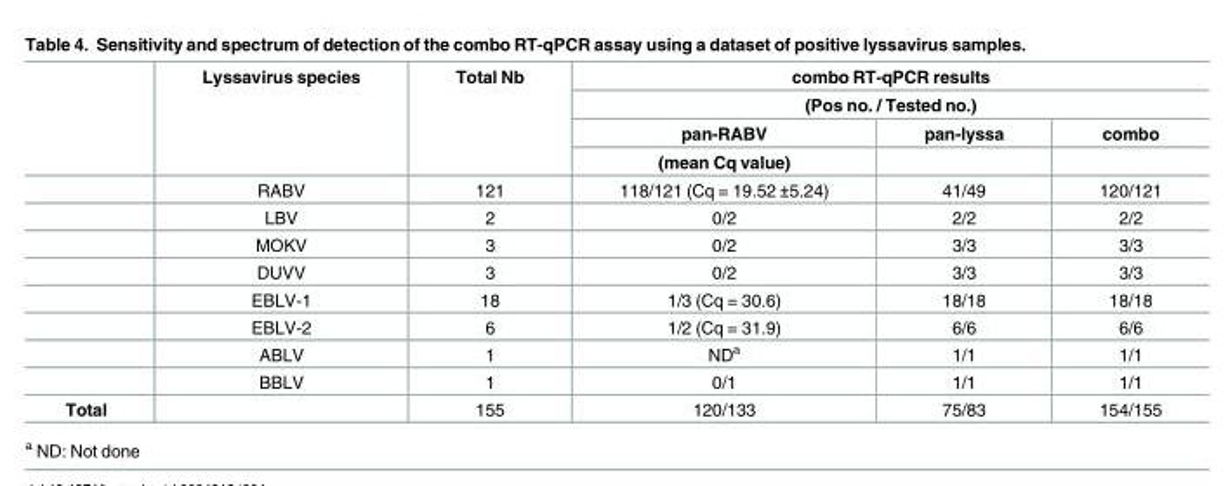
<table><thead><tr><td rowspan="4"></td><td rowspan="4">Lyssavirus species</td><td rowspan="4">Total Nb</td><td rowspan="2" colspan="3">combo RT-qPCR results (Pos no. / Tested no.)</td></tr><tr></tr><tr><td rowspan="2">pan-RABV (mean Cq value)</td><td rowspan="2">pan-lyssa</td><td rowspan="2">combo</td></tr><tr></tr></thead><tbody><tr><td></td><td>RABV</td><td>121</td><td>118/121 (Cq = 19.52 ±5.24)</td><td>41/49</td><td>120/121</td></tr><tr><td></td><td>LBV</td><td>2</td><td>0/2</td><td>2/2</td><td>2/2</td></tr><tr><td></td><td>MOKV</td><td>3</td><td>0/2</td><td>3/3</td><td>3/3</td></tr><tr><td></td><td>DUVV</td><td>3</td><td>0/2</td><td>3/3</td><td>3/3</td></tr><tr><td></td><td>EBLV-1</td><td>18</td><td>1/3 (Cq = 30.6)</td><td>18/18</td><td>18/18</td></tr><tr><td></td><td>EBLV-2</td><td>6</td><td>1/2 (Cq = 31.9)</td><td>6/6</td><td>6/6</td></tr><tr><td></td><td>ABLV</td><td>1</td><td>ND<sup>a</sup></td><td>1/1</td><td>1/1</td></tr><tr><td></td><td>BBLV</td><td>1</td><td>0/1</td><td>1/1</td><td>1/1</td></tr><tr><td>Total</td><td></td><td>155</td><td>120/133</td><td>75/83</td><td>154/155</td></tr></tbody></table>